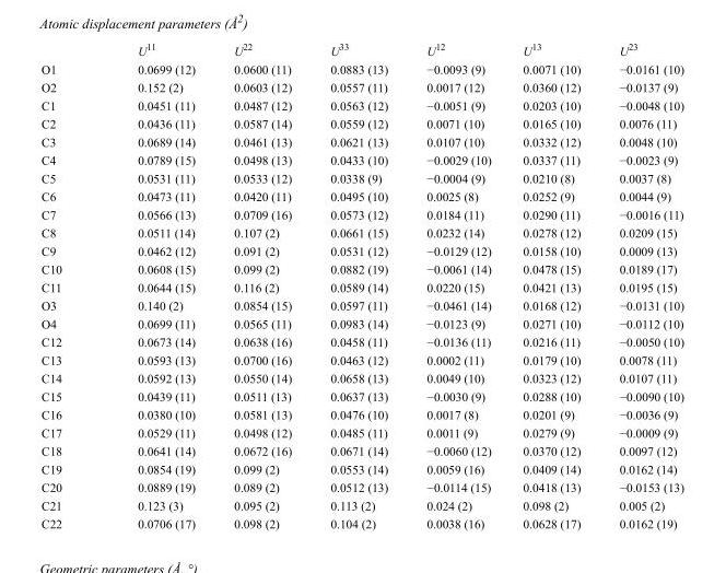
<table><thead><tr><td></td><td>U<sup>11</sup></td><td>U<sup>22</sup></td><td>U<sup>33</sup></td><td>U<sup>12</sup></td><td>U<sup>13</sup></td><td>U<sup>23</sup></td></tr></thead><tbody><tr><td>O1</td><td>0.0699 (12)</td><td>0.0600 (11)</td><td>0.0883 (13)</td><td>−0.0093 (9)</td><td>0.0071 (10)</td><td>−0.0161 (10)</td></tr><tr><td>O2</td><td>0.152 (2)</td><td>0.0603 (12)</td><td>0.0557 (11)</td><td>0.0017 (12)</td><td>0.0360 (12)</td><td>−0.0137 (9)</td></tr><tr><td>C1</td><td>0.0451 (11)</td><td>0.0487 (12)</td><td>0.0563 (12)</td><td>−0.0051 (9)</td><td>0.0203 (10)</td><td>−0.0048 (10)</td></tr><tr><td>C2</td><td>0.0436 (11)</td><td>0.0587 (14)</td><td>0.0559 (12)</td><td>0.0071 (10)</td><td>0.0165 (10)</td><td>0.0076 (11)</td></tr><tr><td>C3</td><td>0.0689 (14)</td><td>0.0461 (13)</td><td>0.0621 (13)</td><td>0.0107 (10)</td><td>0.0332 (12)</td><td>0.0048 (10)</td></tr><tr><td>C4</td><td>0.0789 (15)</td><td>0.0498 (13)</td><td>0.0433 (10)</td><td>−0.0029 (10)</td><td>0.0337 (11)</td><td>−0.0023 (9)</td></tr><tr><td>C5</td><td>0.0531 (11)</td><td>0.0533 (12)</td><td>0.0338 (9)</td><td>−0.0004 (9)</td><td>0.0210 (8)</td><td>0.0037 (8)</td></tr><tr><td>C6</td><td>0.0473 (11)</td><td>0.0420 (11)</td><td>0.0495 (10)</td><td>0.0025 (8)</td><td>0.0252 (9)</td><td>0.0044 (9)</td></tr><tr><td>C7</td><td>0.0566 (13)</td><td>0.0709 (16)</td><td>0.0573 (12)</td><td>0.0184 (11)</td><td>0.0290 (11)</td><td>−0.0016 (11)</td></tr><tr><td>C8</td><td>0.0511 (14)</td><td>0.107 (2)</td><td>0.0661 (15)</td><td>0.0232 (14)</td><td>0.0278 (12)</td><td>0.0209 (15)</td></tr><tr><td>C9</td><td>0.0462 (12)</td><td>0.091 (2)</td><td>0.0531 (12)</td><td>−0.0129 (12)</td><td>0.0158 (10)</td><td>0.0009 (13)</td></tr><tr><td>C10</td><td>0.0608 (15)</td><td>0.099 (2)</td><td>0.0882 (19)</td><td>−0.0061 (14)</td><td>0.0478 (15)</td><td>0.0189 (17)</td></tr><tr><td>C11</td><td>0.0644 (15)</td><td>0.116 (2)</td><td>0.0589 (14)</td><td>0.0220 (15)</td><td>0.0421 (13)</td><td>0.0195 (15)</td></tr><tr><td>O3</td><td>0.140 (2)</td><td>0.0854 (15)</td><td>0.0597 (11)</td><td>−0.0461 (14)</td><td>0.0168 (12)</td><td>−0.0131 (10)</td></tr><tr><td>O4</td><td>0.0699 (11)</td><td>0.0565 (11)</td><td>0.0983 (14)</td><td>−0.0123 (9)</td><td>0.0271 (10)</td><td>−0.0112 (10)</td></tr><tr><td>C12</td><td>0.0673 (14)</td><td>0.0638 (16)</td><td>0.0458 (11)</td><td>−0.0136 (11)</td><td>0.0216 (11)</td><td>−0.0050 (10)</td></tr><tr><td>C13</td><td>0.0593 (13)</td><td>0.0700 (16)</td><td>0.0463 (12)</td><td>0.0002 (11)</td><td>0.0179 (10)</td><td>0.0078 (11)</td></tr><tr><td>C14</td><td>0.0592 (13)</td><td>0.0550 (14)</td><td>0.0658 (13)</td><td>0.0049 (10)</td><td>0.0323 (12)</td><td>0.0107 (11)</td></tr><tr><td>C15</td><td>0.0439 (11)</td><td>0.0511 (13)</td><td>0.0637 (13)</td><td>−0.0030 (9)</td><td>0.0288 (10)</td><td>−0.0090 (10)</td></tr><tr><td>C16</td><td>0.0380 (10)</td><td>0.0581 (13)</td><td>0.0476 (10)</td><td>0.0017 (8)</td><td>0.0201 (9)</td><td>−0.0036 (9)</td></tr><tr><td>C17</td><td>0.0529 (11)</td><td>0.0498 (12)</td><td>0.0485 (11)</td><td>0.0011 (9)</td><td>0.0279 (9)</td><td>−0.0009 (9)</td></tr><tr><td>C18</td><td>0.0641 (14)</td><td>0.0672 (16)</td><td>0.0671 (14)</td><td>−0.0060 (12)</td><td>0.0370 (12)</td><td>0.0097 (12)</td></tr><tr><td>C19</td><td>0.0854 (19)</td><td>0.099 (2)</td><td>0.0553 (14)</td><td>0.0059 (16)</td><td>0.0409 (14)</td><td>0.0162 (14)</td></tr><tr><td>C20</td><td>0.0889 (19)</td><td>0.089 (2)</td><td>0.0512 (13)</td><td>−0.0114 (15)</td><td>0.0418 (13)</td><td>−0.0153 (13)</td></tr><tr><td>C21</td><td>0.123 (3)</td><td>0.095 (2)</td><td>0.113 (2)</td><td>0.024 (2)</td><td>0.098 (2)</td><td>0.005 (2)</td></tr><tr><td>C22</td><td>0.0706 (17)</td><td>0.098 (2)</td><td>0.104 (2)</td><td>0.0038 (16)</td><td>0.0628 (17)</td><td>0.0162 (19)</td></tr></tbody></table>